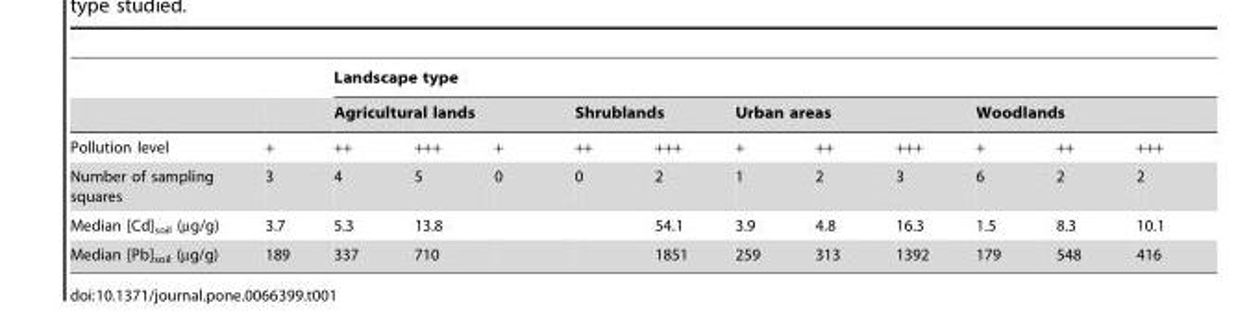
<table><thead><tr><td rowspan="3">Pollution level</td><td rowspan="3">+</td><td colspan="11">Landscape type</td></tr><tr><td colspan="3">Agricultural lands</td><td colspan="2">Shrublands</td><td colspan="3">Urban areas</td><td colspan="3">Woodlands</td></tr><tr><td>++</td><td>+++</td><td>+</td><td>++</td><td>+++</td><td>+</td><td>++</td><td>+++</td><td>+</td><td>++</td><td>+++</td></tr></thead><tbody><tr><td>Number of sampling squares</td><td>3</td><td>4</td><td>5</td><td>0</td><td>0</td><td>2</td><td>1</td><td>2</td><td>3</td><td>6</td><td>2</td><td>2</td></tr><tr><td>Median [Cd]<sub>soil</sub> (µg/g)</td><td>3.7</td><td>5.3</td><td>13.8</td><td></td><td></td><td>54.1</td><td>3.9</td><td>4.8</td><td>16.3</td><td>1.5</td><td>8.3</td><td>10.1</td></tr><tr><td>Median [Pb]<sub>soil</sub> (µg/g)</td><td>189</td><td>337</td><td>710</td><td></td><td></td><td>1851</td><td>259</td><td>313</td><td>1392</td><td>179</td><td>548</td><td>416</td></tr></tbody></table>